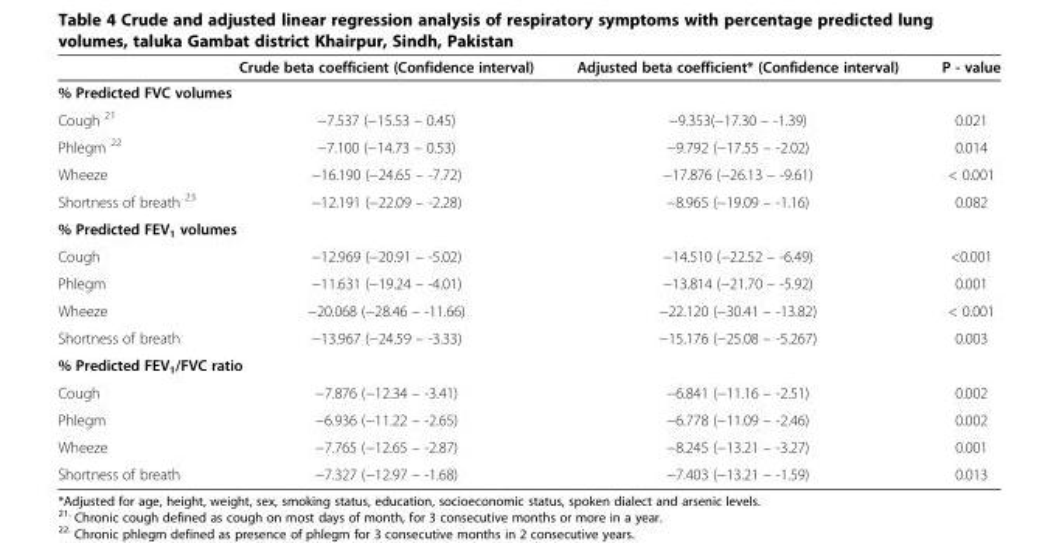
<table><thead><tr><td></td><td>Crude beta coefficient (Confidence interval)</td><td>Adjusted beta coefficient* (Confidence interval)</td><td>P - value</td></tr></thead><tbody><tr><td colspan="4">% Predicted FVC volumes</td></tr><tr><td>Cough <sup>21</sup></td><td>−7.537 (−15.53 – 0.45)</td><td>−9.353(−17.30 – -1.39)</td><td>0.021</td></tr><tr><td>Phlegm <sup>22</sup></td><td>−7.100 (−14.73 – 0.53)</td><td>−9.792 (−17.55 – -2.02)</td><td>0.014</td></tr><tr><td>Wheeze</td><td>−16.190 (−24.65 – -7.72)</td><td>−17.876 (−26.13 – -9.61)</td><td>&lt; 0.001</td></tr><tr><td>Shortness of breath <sup>23</sup></td><td>−12.191 (−22.09 – -2.28)</td><td>−8.965 (−19.09 – -1.16)</td><td>0.082</td></tr><tr><td colspan="4">% Predicted FEV<sub>1</sub> volumes</td></tr><tr><td>Cough</td><td>−12.969 (−20.91 – -5.02)</td><td>−14.510 (−22.52 – -6.49)</td><td>&lt;0.001</td></tr><tr><td>Phlegm</td><td>−11.631 (−19.24 – -4.01)</td><td>−13.814 (−21.70 – -5.92)</td><td>0.001</td></tr><tr><td>Wheeze</td><td>−20.068 (−28.46 – -11.66)</td><td>−22.120 (−30.41 – -13.82)</td><td>&lt; 0.001</td></tr><tr><td>Shortness of breath</td><td>−13.967 (−24.59 – -3.33)</td><td>−15.176 (−25.08 – -5.267)</td><td>0.003</td></tr><tr><td colspan="4">% Predicted FEV<sub>1</sub>/FVC ratio</td></tr><tr><td>Cough</td><td>−7.876 (−12.34 – -3.41)</td><td>−6.841 (−11.16 – -2.51)</td><td>0.002</td></tr><tr><td>Phlegm</td><td>−6.936 (−11.22 – -2.65)</td><td>−6.778 (−11.09 – -2.46)</td><td>0.002</td></tr><tr><td>Wheeze</td><td>−7.765 (−12.65 – -2.87)</td><td>−8.245 (−13.21 – -3.27)</td><td>0.001</td></tr><tr><td>Shortness of breath</td><td>−7.327 (−12.97 – -1.68)</td><td>−7.403 (−13.21 – -1.59)</td><td>0.013</td></tr></tbody></table>